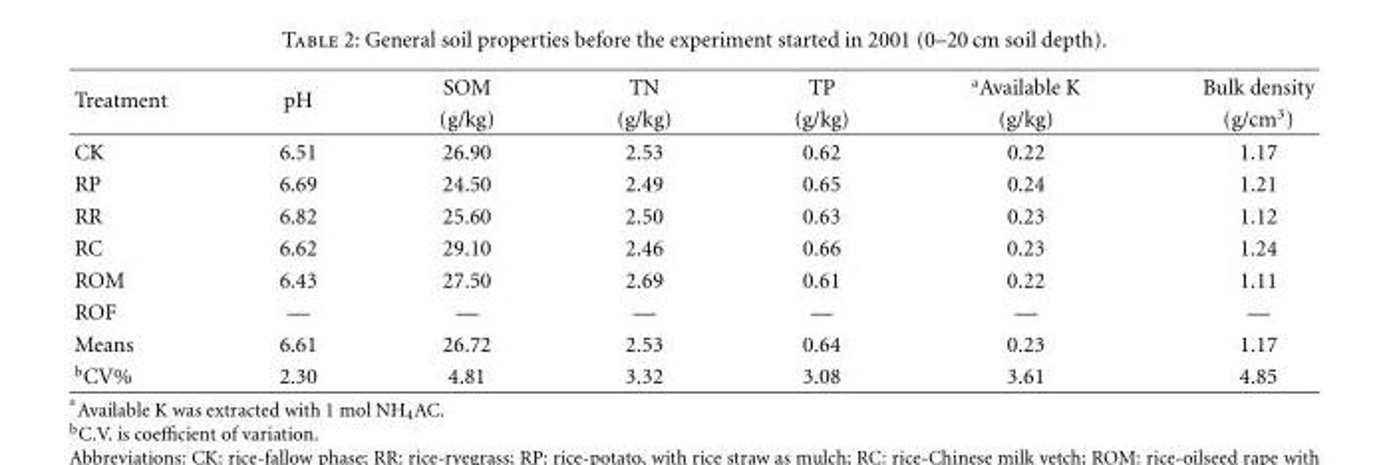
<table><thead><tr><td rowspan="2">Treatment</td><td rowspan="2">pH</td><td rowspan="2">SOM (g/kg)</td><td rowspan="2">TN (g/kg)</td><td rowspan="2">TP (g/kg)</td><td rowspan="2"><sup>a</sup>Available K (g/kg)</td><td rowspan="2">Bulk density (g/cm<sup>3</sup>)</td></tr><tr></tr></thead><tbody><tr><td>CK</td><td>6.51</td><td>26.90</td><td>2.53</td><td>0.62</td><td>0.22</td><td>1.17</td></tr><tr><td>RP</td><td>6.69</td><td>24.50</td><td>2.49</td><td>0.65</td><td>0.24</td><td>1.21</td></tr><tr><td>RR</td><td>6.82</td><td>25.60</td><td>2.50</td><td>0.63</td><td>0.23</td><td>1.12</td></tr><tr><td>RC</td><td>6.62</td><td>29.10</td><td>2.46</td><td>0.66</td><td>0.23</td><td>1.24</td></tr><tr><td>ROM</td><td>6.43</td><td>27.50</td><td>2.69</td><td>0.61</td><td>0.22</td><td>1.11</td></tr><tr><td>ROF</td><td>—</td><td>—</td><td>—</td><td>—</td><td>—</td><td>—</td></tr><tr><td>Means</td><td>6.61</td><td>26.72</td><td>2.53</td><td>0.64</td><td>0.23</td><td>1.17</td></tr><tr><td><sup>b</sup>CV%</td><td>2.30</td><td>4.81</td><td>3.32</td><td>3.08</td><td>3.61</td><td>4.85</td></tr></tbody></table>